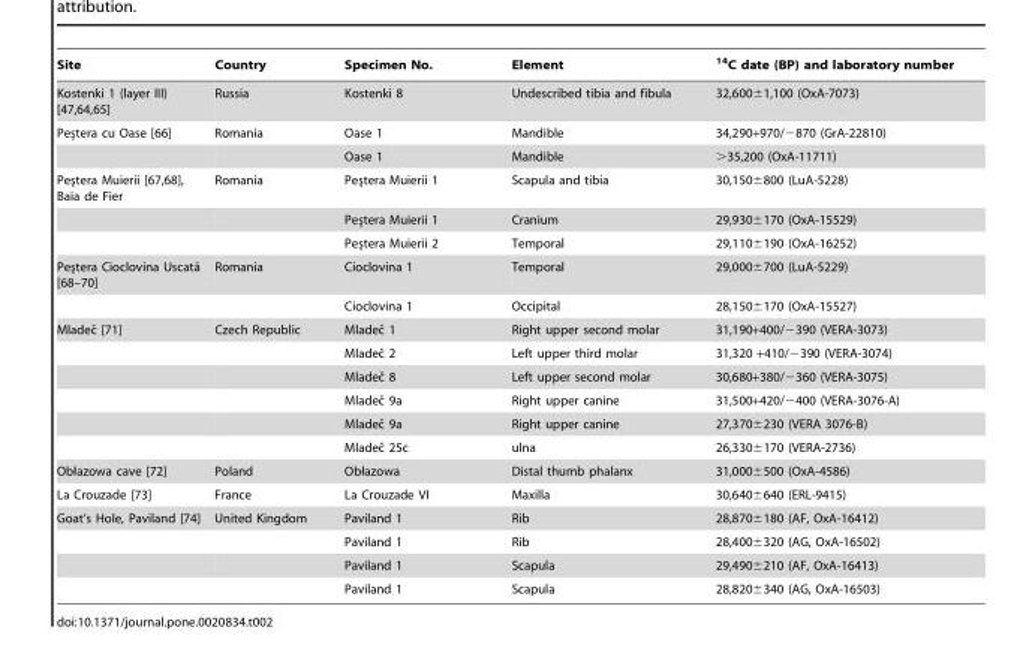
<table><thead><tr><td>Site</td><td>Country</td><td>Specimen No.</td><td>Element</td><td><sup>14</sup>C date (BP) and laboratory number</td></tr></thead><tbody><tr><td>Kostenki 1 (layer III) [47,64,65]</td><td>Russia</td><td>Kostenki 8</td><td>Undescribed tibia and fibula</td><td>32,600±1,100 (OxA-7073)</td></tr><tr><td rowspan="2">Pes¸tera cu Oase [66]</td><td>Romania</td><td>Oase 1</td><td>Mandible</td><td>34,290+970/−870 (GrA-22810)</td></tr><tr><td></td><td>Oase 1</td><td>Mandible</td><td>&gt;35,200 (OxA-11711)</td></tr><tr><td rowspan="3">Pes¸tera Muierii [67,68], Baia de Fier</td><td>Romania</td><td>Pes¸tera Muierii 1</td><td>Scapula and tibia</td><td>30,150±800 (LuA-5228)</td></tr><tr><td></td><td>Pes¸tera Muierii 1</td><td>Cranium</td><td>29,930±170 (OxA-15529)</td></tr><tr><td></td><td>Pes¸tera Muierii 2</td><td>Temporal</td><td>29,110±190 (OxA-16252)</td></tr><tr><td rowspan="2">Pes¸tera Cioclovina Uscata˘ [68–70]</td><td>Romania</td><td>Cioclovina 1</td><td>Temporal</td><td>29,000±700 (LuA-5229)</td></tr><tr><td></td><td>Cioclovina 1</td><td>Occipital</td><td>28,150±170 (OxA-15527)</td></tr><tr><td rowspan="6">Mladecˇ [71]</td><td>Czech Republic</td><td>Mladecˇ 1</td><td>Right upper second molar</td><td>31,190+400/−390 (VERA-3073)</td></tr><tr><td></td><td>Mladecˇ 2</td><td>Left upper third molar</td><td>31,320 +410/−390 (VERA-3074)</td></tr><tr><td></td><td>Mladecˇ 8</td><td>Left upper second molar</td><td>30,680+380/−360 (VERA-3075)</td></tr><tr><td></td><td>Mladecˇ 9a</td><td>Right upper canine</td><td>31,500+420/−400 (VERA-3076-A)</td></tr><tr><td></td><td>Mladecˇ 9a</td><td>Right upper canine</td><td>27,370±230 (VERA 3076-B)</td></tr><tr><td></td><td>Mladecˇ 25c</td><td>ulna</td><td>26,330±170 (VERA-2736)</td></tr><tr><td>Obłazowa cave [72]</td><td>Poland</td><td>Obłazowa</td><td>Distal thumb phalanx</td><td>31,000±500 (OxA-4586)</td></tr><tr><td>La Crouzade [73]</td><td>France</td><td>La Crouzade VI</td><td>Maxilla</td><td>30,640±640 (ERL-9415)</td></tr><tr><td rowspan="4">Goat’s Hole, Paviland [74]</td><td>United Kingdom</td><td>Paviland 1</td><td>Rib</td><td>28,870±180 (AF, OxA-16412)</td></tr><tr><td></td><td>Paviland 1</td><td>Rib</td><td>28,400±320 (AG, OxA-16502)</td></tr><tr><td></td><td>Paviland 1</td><td>Scapula</td><td>29,490±210 (AF, OxA-16413)</td></tr><tr><td></td><td>Paviland 1</td><td>Scapula</td><td>28,820±340 (AG, OxA-16503)</td></tr></tbody></table>